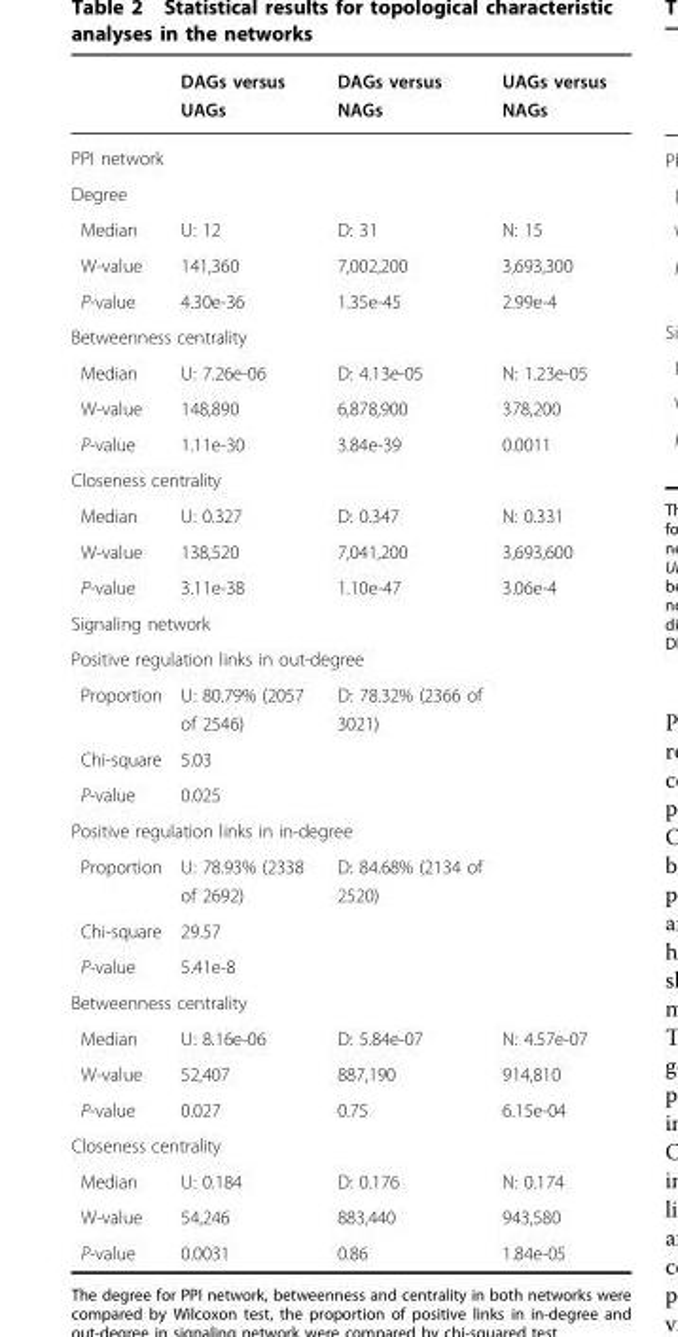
<table><thead><tr><td></td><td>DAGs versus UAGs</td><td>DAGs versus NAGs</td><td>UAGs versus NAGs</td></tr></thead><tbody><tr><td colspan="4">PPI network</td></tr><tr><td colspan="4">Degree</td></tr><tr><td>Median</td><td>U: 12</td><td>D: 31</td><td>N: 15</td></tr><tr><td>W-value</td><td>141,360</td><td>7,002,200</td><td>3,693,300</td></tr><tr><td>P-value</td><td>4.30e-36</td><td>1.35e-45</td><td>2.99e-4</td></tr><tr><td colspan="4">Betweenness centrality</td></tr><tr><td>Median</td><td>U: 7.26e-06</td><td>D: 4.13e-05</td><td>N: 1.23e-05</td></tr><tr><td>W-value</td><td>148,890</td><td>6,878,900</td><td>378,200</td></tr><tr><td>P-value</td><td>1.11e-30</td><td>3.84e-39</td><td>0.0011</td></tr><tr><td colspan="4">Closeness centrality</td></tr><tr><td>Median</td><td>U: 0.327</td><td>D: 0.347</td><td>N: 0.331</td></tr><tr><td>W-value</td><td>138,520</td><td>7,041,200</td><td>3,693,600</td></tr><tr><td>P-value</td><td>3.11e-38</td><td>1.10e-47</td><td>3.06e-4</td></tr><tr><td colspan="4">Signaling network</td></tr><tr><td colspan="4">Positive regulation links in out-degree</td></tr><tr><td>Proportion</td><td>U: 80.79% (2057 of 2546)</td><td>D: 78.32% (2366 of 3021)</td><td></td></tr><tr><td>Chi-square</td><td>5.03</td><td></td><td></td></tr><tr><td>P-value</td><td>0.025</td><td></td><td></td></tr><tr><td colspan="4">Positive regulation links in in-degree</td></tr><tr><td>Proportion</td><td>U: 78.93% (2338 of 2692)</td><td>D: 84.68% (2134 of 2520)</td><td></td></tr><tr><td>Chi-square</td><td>29.57</td><td></td><td></td></tr><tr><td>P-value</td><td>5.41e-8</td><td></td><td></td></tr><tr><td colspan="4">Betweenness centrality</td></tr><tr><td>Median</td><td>U: 8.16e-06</td><td>D: 5.84e-07</td><td>N: 4.57e-07</td></tr><tr><td>W-value</td><td>52,407</td><td>887,190</td><td>914,810</td></tr><tr><td>P-value</td><td>0.027</td><td>0.75</td><td>6.15e-04</td></tr><tr><td colspan="4">Closeness centrality</td></tr><tr><td>Median</td><td>U: 0.184</td><td>D: 0.176</td><td>N: 0.174</td></tr><tr><td>W-value</td><td>54,246</td><td>883,440</td><td>943,580</td></tr><tr><td>P-value</td><td>0.0031</td><td>0.86</td><td>1.84e-05</td></tr></tbody></table>